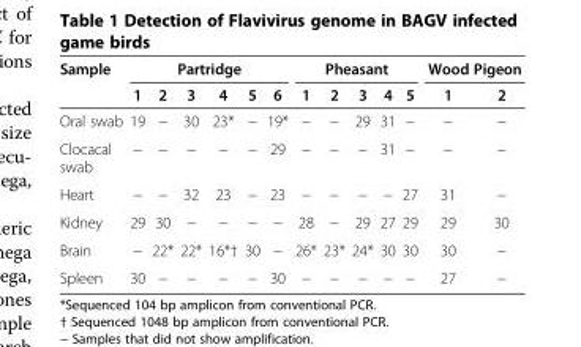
<table><thead><tr><td rowspan="2">Sample</td><td colspan="6">Partridge</td><td colspan="5">Pheasant</td><td colspan="2">Wood Pigeon</td></tr><tr><td>1</td><td>2</td><td>3</td><td>4</td><td>5</td><td>6</td><td>1</td><td>2</td><td>3</td><td>4</td><td>5</td><td>1</td><td>2</td></tr></thead><tbody><tr><td>Oral swab</td><td>19</td><td>−</td><td>30</td><td>23*</td><td>−</td><td>19*</td><td>−</td><td>−</td><td>29</td><td>31</td><td>−</td><td>−</td><td>−</td></tr><tr><td>Clocacal swab</td><td>−</td><td>−</td><td>−</td><td>−</td><td>−</td><td>29</td><td>−</td><td>−</td><td>−</td><td>31</td><td>−</td><td>−</td><td>−</td></tr><tr><td>Heart</td><td>−</td><td>−</td><td>32</td><td>23</td><td>−</td><td>23</td><td>−</td><td>−</td><td>−</td><td>−</td><td>27</td><td>31</td><td>−</td></tr><tr><td>Kidney</td><td>29</td><td>30</td><td>−</td><td>−</td><td>−</td><td>−</td><td>28</td><td>−</td><td>29</td><td>27</td><td>29</td><td>29</td><td>30</td></tr><tr><td>Brain</td><td>−</td><td>22*</td><td>22*</td><td>16*†</td><td>30</td><td>−</td><td>26*</td><td>23*</td><td>24*</td><td>30</td><td>30</td><td>30</td><td>−</td></tr><tr><td>Spleen</td><td>30</td><td>−</td><td>−</td><td>−</td><td>−</td><td>30</td><td>−</td><td>−</td><td>−</td><td>−</td><td>−</td><td>27</td><td>−</td></tr></tbody></table>